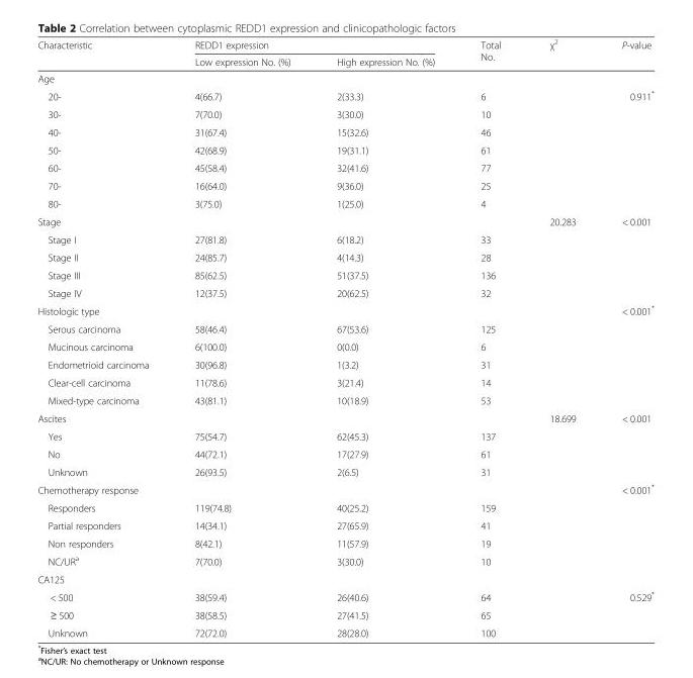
<table><thead><tr><td rowspan="2">Characteristic</td><td colspan="2">REDD1 expression</td><td rowspan="2">Total No.</td><td rowspan="2">χ<sup>2</sup></td><td rowspan="2">P-value</td></tr><tr><td>Low expression No. (%)</td><td>High expression No. (%)</td></tr></thead><tbody><tr><td colspan="6">Age</td></tr><tr><td>20-</td><td>4(66.7)</td><td>2(33.3)</td><td>6</td><td></td><td>0.911*</td></tr><tr><td>30-</td><td>7(70.0)</td><td>3(30.0)</td><td>10</td><td></td><td></td></tr><tr><td>40-</td><td>31(67.4)</td><td>15(32.6)</td><td>46</td><td></td><td></td></tr><tr><td>50-</td><td>42(68.9)</td><td>19(31.1)</td><td>61</td><td></td><td></td></tr><tr><td>60-</td><td>45(58.4)</td><td>32(41.6)</td><td>77</td><td></td><td></td></tr><tr><td>70-</td><td>16(64.0)</td><td>9(36.0)</td><td>25</td><td></td><td></td></tr><tr><td>80-</td><td>3(75.0)</td><td>1(25.0)</td><td>4</td><td></td><td></td></tr><tr><td>Stage</td><td></td><td></td><td></td><td>20.283</td><td>&lt; 0.001</td></tr><tr><td>Stage I</td><td>27(81.8)</td><td>6(18.2)</td><td>33</td><td></td><td></td></tr><tr><td>Stage II</td><td>24(85.7)</td><td>4(14.3)</td><td>28</td><td></td><td></td></tr><tr><td>Stage III</td><td>85(62.5)</td><td>51(37.5)</td><td>136</td><td></td><td></td></tr><tr><td>Stage IV</td><td>12(37.5)</td><td>20(62.5)</td><td>32</td><td></td><td></td></tr><tr><td>Histologic type</td><td></td><td></td><td></td><td></td><td>&lt; 0.001*</td></tr><tr><td>Serous carcinoma</td><td>58(46.4)</td><td>67(53.6)</td><td>125</td><td></td><td></td></tr><tr><td>Mucinous carcinoma</td><td>6(100.0)</td><td>0(0.0)</td><td>6</td><td></td><td></td></tr><tr><td>Endometrioid carcinoma</td><td>30(96.8)</td><td>1(3.2)</td><td>31</td><td></td><td></td></tr><tr><td>Clear-cell carcinoma</td><td>11(78.6)</td><td>3(21.4)</td><td>14</td><td></td><td></td></tr><tr><td>Mixed-type carcinoma</td><td>43(81.1)</td><td>10(18.9)</td><td>53</td><td></td><td></td></tr><tr><td>Ascites</td><td></td><td></td><td></td><td>18.699</td><td>&lt; 0.001</td></tr><tr><td>Yes</td><td>75(54.7)</td><td>62(45.3)</td><td>137</td><td></td><td></td></tr><tr><td>No</td><td>44(72.1)</td><td>17(27.9)</td><td>61</td><td></td><td></td></tr><tr><td>Unknown</td><td>26(93.5)</td><td>2(6.5)</td><td>31</td><td></td><td></td></tr><tr><td>Chemotherapy response</td><td></td><td></td><td></td><td></td><td>&lt; 0.001*</td></tr><tr><td>Responders</td><td>119(74.8)</td><td>40(25.2)</td><td>159</td><td></td><td></td></tr><tr><td>Partial responders</td><td>14(34.1)</td><td>27(65.9)</td><td>41</td><td></td><td></td></tr><tr><td>Non responders</td><td>8(42.1)</td><td>11(57.9)</td><td>19</td><td></td><td></td></tr><tr><td>NC/UR<sup>a</sup></td><td>7(70.0)</td><td>3(30.0)</td><td>10</td><td></td><td></td></tr><tr><td colspan="6">CA125</td></tr><tr><td>&lt; 500</td><td>38(59.4)</td><td>26(40.6)</td><td>64</td><td></td><td>0.529*</td></tr><tr><td>≥ 500</td><td>38(58.5)</td><td>27(41.5)</td><td>65</td><td></td><td></td></tr><tr><td>Unknown</td><td>72(72.0)</td><td>28(28.0)</td><td>100</td><td></td><td></td></tr></tbody></table>